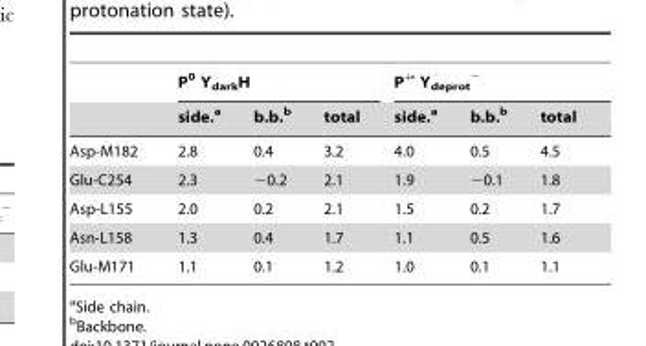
<table><thead><tr><td rowspan="2"></td><td colspan="3">P<sup>0</sup> Y<sub>dark</sub>H</td><td colspan="3">P<sup>+•</sup> Y<sub>deprot</sub> <sup>−</sup></td></tr><tr><td>side.<sup>a</sup></td><td>b.b.<sup>b</sup></td><td>total</td><td>side.<sup>a</sup></td><td>b.b.<sup>b</sup></td><td>total</td></tr></thead><tbody><tr><td>Asp-M182</td><td>2.8</td><td>0.4</td><td>3.2</td><td>4.0</td><td>0.5</td><td>4.5</td></tr><tr><td>Glu-C254</td><td>2.3</td><td>−0.2</td><td>2.1</td><td>1.9</td><td>−0.1</td><td>1.8</td></tr><tr><td>Asp-L155</td><td>2.0</td><td>0.2</td><td>2.1</td><td>1.5</td><td>0.2</td><td>1.7</td></tr><tr><td>Asn-L158</td><td>1.3</td><td>0.4</td><td>1.7</td><td>1.1</td><td>0.5</td><td>1.6</td></tr><tr><td>Glu-M171</td><td>1.1</td><td>0.1</td><td>1.2</td><td>1.0</td><td>0.1</td><td>1.1</td></tr></tbody></table>